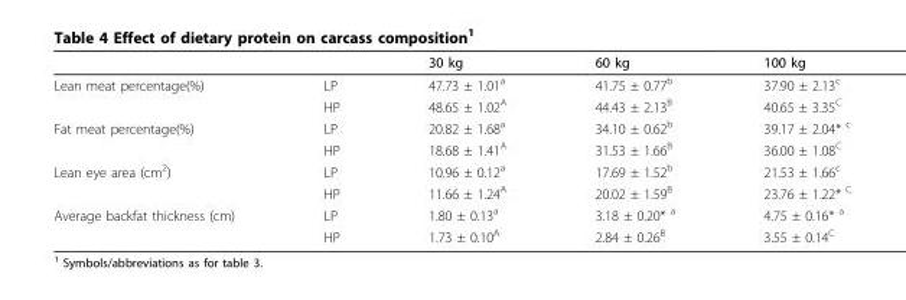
<table><thead><tr><td></td><td></td><td>30 kg</td><td>60 kg</td><td>100 kg</td></tr></thead><tbody><tr><td rowspan="2">Lean meat percentage(%)</td><td>LP</td><td>47.73 ± 1.01<sup>a</sup></td><td>41.75 ± 0.77<sup>b</sup></td><td>37.90 ± 2.13<sup>c</sup></td></tr><tr><td>HP</td><td>48.65 ± 1.02<sup>A</sup></td><td>44.43 ± 2.13<sup>B</sup></td><td>40.65 ± 3.35<sup>C</sup></td></tr><tr><td rowspan="2">Fat meat percentage(%)</td><td>LP</td><td>20.82 ± 1.68<sup>a</sup></td><td>34.10 ± 0.62<sup>b</sup></td><td>39.17 ± 2.04* <sup>c</sup></td></tr><tr><td>HP</td><td>18.68 ± 1.41<sup>A</sup></td><td>31.53 ± 1.66<sup>B</sup></td><td>36.00 ± 1.08<sup>C</sup></td></tr><tr><td rowspan="2">Lean eye area (cm<sup>2</sup>)</td><td>LP</td><td>10.96 ± 0.12<sup>a</sup></td><td>17.69 ± 1.52<sup>b</sup></td><td>21.53 ± 1.66<sup>c</sup></td></tr><tr><td>HP</td><td>11.66 ± 1.24<sup>A</sup></td><td>20.02 ± 1.59<sup>B</sup></td><td>23.76 ± 1.22* <sup>C</sup></td></tr><tr><td rowspan="2">Average backfat thickness (cm)</td><td>LP</td><td>1.80 ± 0.13<sup>a</sup></td><td>3.18 ± 0.20* <sup>a</sup></td><td>4.75 ± 0.16* <sup>a</sup></td></tr><tr><td>HP</td><td>1.73 ± 0.10<sup>A</sup></td><td>2.84 ± 0.26<sup>B</sup></td><td>3.55 ± 0.14<sup>C</sup></td></tr></tbody></table>